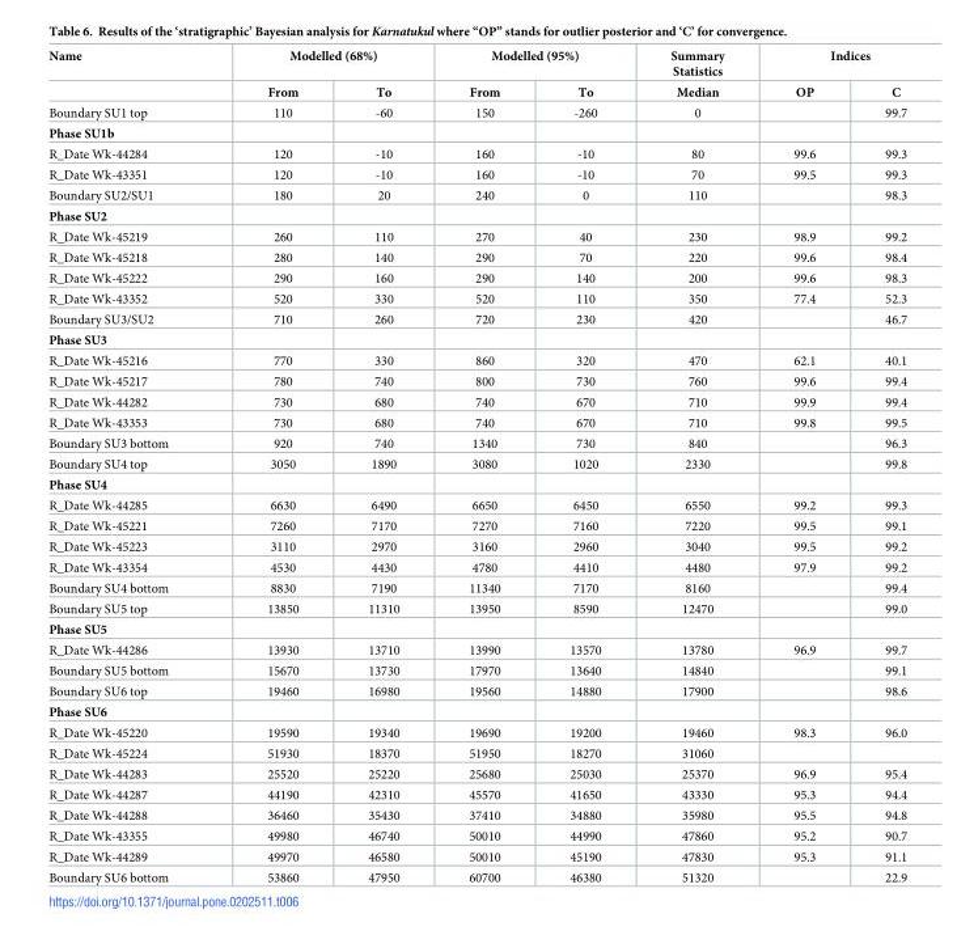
<table><thead><tr><td rowspan="2">Name</td><td colspan="2">Modelled (68%)</td><td colspan="2">Modelled (95%)</td><td rowspan="2">Summary Statistics Median</td><td colspan="2">Indices</td></tr><tr><td>From</td><td>To</td><td>From</td><td>To</td><td>OP</td><td>C</td></tr></thead><tbody><tr><td>Boundary SU1 top</td><td>110</td><td>-60</td><td>150</td><td>-260</td><td>0</td><td></td><td>99.7</td></tr><tr><td colspan="8">Phase SU1b</td></tr><tr><td>R_Date Wk-44284</td><td>120</td><td>-10</td><td>160</td><td>-10</td><td>80</td><td>99.6</td><td>99.3</td></tr><tr><td>R_Date Wk-43351</td><td>120</td><td>-10</td><td>160</td><td>-10</td><td>70</td><td>99.5</td><td>99.3</td></tr><tr><td>Boundary SU2/SU1</td><td>180</td><td>20</td><td>240</td><td>0</td><td>110</td><td></td><td>98.3</td></tr><tr><td colspan="8">Phase SU2</td></tr><tr><td>R_Date Wk-45219</td><td>260</td><td>110</td><td>270</td><td>40</td><td>230</td><td>98.9</td><td>99.2</td></tr><tr><td>R_Date Wk-45218</td><td>280</td><td>140</td><td>290</td><td>70</td><td>220</td><td>99.6</td><td>98.4</td></tr><tr><td>R_Date Wk-45222</td><td>290</td><td>160</td><td>290</td><td>140</td><td>200</td><td>99.6</td><td>98.3</td></tr><tr><td>R_Date Wk-43352</td><td>520</td><td>330</td><td>520</td><td>110</td><td>350</td><td>77.4</td><td>52.3</td></tr><tr><td>Boundary SU3/SU2</td><td>710</td><td>260</td><td>720</td><td>230</td><td>420</td><td></td><td>46.7</td></tr><tr><td colspan="8">Phase SU3</td></tr><tr><td>R_Date Wk-45216</td><td>770</td><td>330</td><td>860</td><td>320</td><td>470</td><td>62.1</td><td>40.1</td></tr><tr><td>R_Date Wk-45217</td><td>780</td><td>740</td><td>800</td><td>730</td><td>760</td><td>99.6</td><td>99.4</td></tr><tr><td>R_Date Wk-44282</td><td>730</td><td>680</td><td>740</td><td>670</td><td>710</td><td>99.9</td><td>99.4</td></tr><tr><td>R_Date Wk-43353</td><td>730</td><td>680</td><td>740</td><td>670</td><td>710</td><td>99.8</td><td>99.5</td></tr><tr><td>Boundary SU3 bottom</td><td>920</td><td>740</td><td>1340</td><td>730</td><td>840</td><td></td><td>96.3</td></tr><tr><td>Boundary SU4 top</td><td>3050</td><td>1890</td><td>3080</td><td>1020</td><td>2330</td><td></td><td>99.8</td></tr><tr><td colspan="8">Phase SU4</td></tr><tr><td>R_Date Wk-44285</td><td>6630</td><td>6490</td><td>6650</td><td>6450</td><td>6550</td><td>99.2</td><td>99.3</td></tr><tr><td>R_Date Wk-45221</td><td>7260</td><td>7170</td><td>7270</td><td>7160</td><td>7220</td><td>99.5</td><td>99.1</td></tr><tr><td>R_Date Wk-45223</td><td>3110</td><td>2970</td><td>3160</td><td>2960</td><td>3040</td><td>99.5</td><td>99.2</td></tr><tr><td>R_Date Wk-43354</td><td>4530</td><td>4430</td><td>4780</td><td>4410</td><td>4480</td><td>97.9</td><td>99.2</td></tr><tr><td>Boundary SU4 bottom</td><td>8830</td><td>7190</td><td>11340</td><td>7170</td><td>8160</td><td></td><td>99.4</td></tr><tr><td>Boundary SU5 top</td><td>13850</td><td>11310</td><td>13950</td><td>8590</td><td>12470</td><td></td><td>99.0</td></tr><tr><td colspan="8">Phase SU5</td></tr><tr><td>R_Date Wk-44286</td><td>13930</td><td>13710</td><td>13990</td><td>13570</td><td>13780</td><td>96.9</td><td>99.7</td></tr><tr><td>Boundary SU5 bottom</td><td>15670</td><td>13730</td><td>17970</td><td>13640</td><td>14840</td><td></td><td>99.1</td></tr><tr><td>Boundary SU6 top</td><td>19460</td><td>16980</td><td>19560</td><td>14880</td><td>17900</td><td></td><td>98.6</td></tr><tr><td colspan="8">Phase SU6</td></tr><tr><td>R_Date Wk-45220</td><td>19590</td><td>19340</td><td>19690</td><td>19200</td><td>19460</td><td>98.3</td><td>96.0</td></tr><tr><td>R_Date Wk-45224</td><td>51930</td><td>18370</td><td>51950</td><td>18270</td><td>31060</td><td></td><td></td></tr><tr><td>R_Date Wk-44283</td><td>25520</td><td>25220</td><td>25680</td><td>25030</td><td>25370</td><td>96.9</td><td>95.4</td></tr><tr><td>R_Date Wk-44287</td><td>44190</td><td>42310</td><td>45570</td><td>41650</td><td>43330</td><td>95.3</td><td>94.4</td></tr><tr><td>R_Date Wk-44288</td><td>36460</td><td>35430</td><td>37410</td><td>34880</td><td>35980</td><td>95.5</td><td>94.8</td></tr><tr><td>R_Date Wk-43355</td><td>49980</td><td>46740</td><td>50010</td><td>44990</td><td>47860</td><td>95.2</td><td>90.7</td></tr><tr><td>R_Date Wk-44289</td><td>49970</td><td>46580</td><td>50010</td><td>45190</td><td>47830</td><td>95.3</td><td>91.1</td></tr><tr><td>Boundary SU6 bottom</td><td>53860</td><td>47950</td><td>60700</td><td>46380</td><td>51320</td><td></td><td>22.9</td></tr></tbody></table>